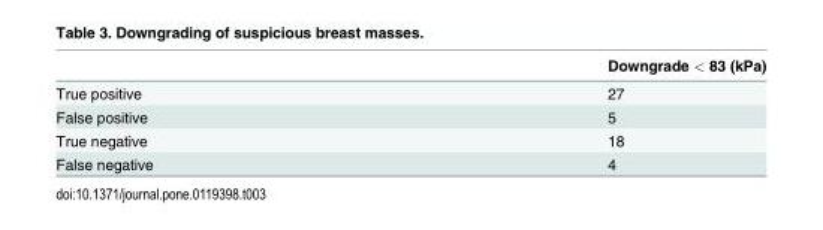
<table><thead><tr><td></td><td>Downgrade &lt; 83 (kPa)</td></tr></thead><tbody><tr><td>True positive</td><td>27</td></tr><tr><td>False positive</td><td>5</td></tr><tr><td>True negative</td><td>18</td></tr><tr><td>False negative</td><td>4</td></tr></tbody></table>